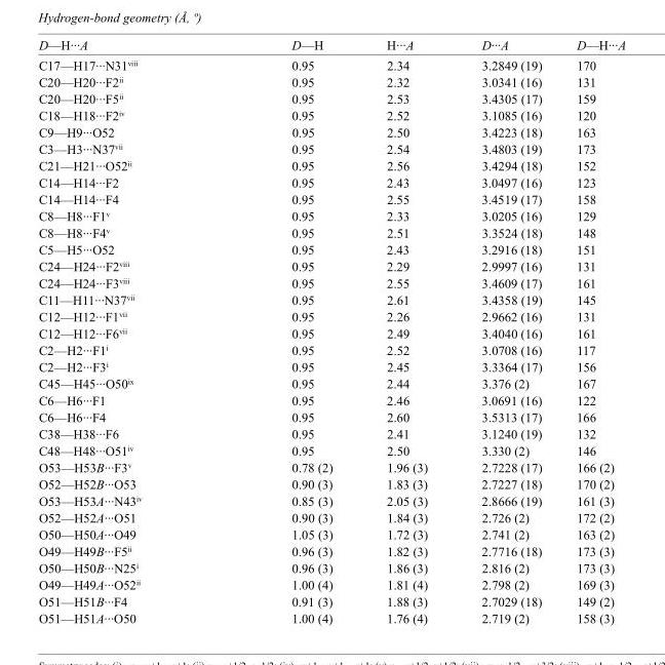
<table><tbody><tr><td>D—H···A</td><td>D—H</td><td>H···A</td><td>D···A</td><td>D—H···A</td></tr><tr><td>C17—H17···N31<sup>viii</sup></td><td>0.95</td><td>2.34</td><td>3.2849 (19)</td><td>170</td></tr><tr><td>C20—H20···F2<sup>ii</sup></td><td>0.95</td><td>2.32</td><td>3.0341 (16)</td><td>131</td></tr><tr><td>C20—H20···F5<sup>ii</sup></td><td>0.95</td><td>2.53</td><td>3.4305 (17)</td><td>159</td></tr><tr><td>C18—H18···F2<sup>iv</sup></td><td>0.95</td><td>2.52</td><td>3.1085 (16)</td><td>120</td></tr><tr><td>C9—H9···O52</td><td>0.95</td><td>2.50</td><td>3.4223 (18)</td><td>163</td></tr><tr><td>C3—H3···N37<sup>vii</sup></td><td>0.95</td><td>2.54</td><td>3.4803 (19)</td><td>173</td></tr><tr><td>C21—H21···O52<sup>ii</sup></td><td>0.95</td><td>2.56</td><td>3.4294 (18)</td><td>152</td></tr><tr><td>C14—H14···F2</td><td>0.95</td><td>2.43</td><td>3.0497 (16)</td><td>123</td></tr><tr><td>C14—H14···F4</td><td>0.95</td><td>2.55</td><td>3.4519 (17)</td><td>158</td></tr><tr><td>C8—H8···F1<sup>v</sup></td><td>0.95</td><td>2.33</td><td>3.0205 (16)</td><td>129</td></tr><tr><td>C8—H8···F4<sup>v</sup></td><td>0.95</td><td>2.51</td><td>3.3524 (18)</td><td>148</td></tr><tr><td>C5—H5···O52</td><td>0.95</td><td>2.43</td><td>3.2916 (18)</td><td>151</td></tr><tr><td>C24—H24···F2<sup>viii</sup></td><td>0.95</td><td>2.29</td><td>2.9997 (16)</td><td>131</td></tr><tr><td>C24—H24···F3<sup>viii</sup></td><td>0.95</td><td>2.55</td><td>3.4609 (17)</td><td>161</td></tr><tr><td>C11—H11···N37<sup>vii</sup></td><td>0.95</td><td>2.61</td><td>3.4358 (19)</td><td>145</td></tr><tr><td>C12—H12···F1<sup>vii</sup></td><td>0.95</td><td>2.26</td><td>2.9662 (16)</td><td>131</td></tr><tr><td>C12—H12···F6<sup>vii</sup></td><td>0.95</td><td>2.49</td><td>3.4040 (16)</td><td>161</td></tr><tr><td>C2—H2···F1<sup>i</sup></td><td>0.95</td><td>2.52</td><td>3.0708 (16)</td><td>117</td></tr><tr><td>C2—H2···F3<sup>i</sup></td><td>0.95</td><td>2.45</td><td>3.3364 (17)</td><td>156</td></tr><tr><td>C45—H45···O50<sup>ix</sup></td><td>0.95</td><td>2.44</td><td>3.376 (2)</td><td>167</td></tr><tr><td>C6—H6···F1</td><td>0.95</td><td>2.46</td><td>3.0691 (16)</td><td>122</td></tr><tr><td>C6—H6···F4</td><td>0.95</td><td>2.60</td><td>3.5313 (17)</td><td>166</td></tr><tr><td>C38—H38···F6</td><td>0.95</td><td>2.41</td><td>3.1240 (19)</td><td>132</td></tr><tr><td>C48—H48···O51<sup>iv</sup></td><td>0.95</td><td>2.50</td><td>3.330 (2)</td><td>146</td></tr><tr><td>O53—H53B···F3<sup>v</sup></td><td>0.78 (2)</td><td>1.96 (3)</td><td>2.7228 (17)</td><td>166 (2)</td></tr><tr><td>O52—H52B···O53</td><td>0.90 (3)</td><td>1.83 (3)</td><td>2.7227 (18)</td><td>170 (2)</td></tr><tr><td>O53—H53A···N43<sup>iv</sup></td><td>0.85 (3)</td><td>2.05 (3)</td><td>2.8666 (19)</td><td>161 (3)</td></tr><tr><td>O52—H52A···O51</td><td>0.90 (3)</td><td>1.84 (3)</td><td>2.726 (2)</td><td>172 (2)</td></tr><tr><td>O50—H50A···O49</td><td>1.05 (3)</td><td>1.72 (3)</td><td>2.741 (2)</td><td>163 (2)</td></tr><tr><td>O49—H49B···F5<sup>ii</sup></td><td>0.96 (3)</td><td>1.82 (3)</td><td>2.7716 (18)</td><td>173 (3)</td></tr><tr><td>O50—H50B···N25<sup>i</sup></td><td>0.96 (3)</td><td>1.86 (3)</td><td>2.816 (2)</td><td>173 (3)</td></tr><tr><td>O49—H49A···O52<sup>ii</sup></td><td>1.00 (4)</td><td>1.81 (4)</td><td>2.798 (2)</td><td>169 (3)</td></tr><tr><td>O51—H51B···F4</td><td>0.91 (3)</td><td>1.88 (3)</td><td>2.7029 (18)</td><td>149 (2)</td></tr><tr><td>O51—H51A···O50</td><td>1.00 (4)</td><td>1.76 (4)</td><td>2.719 (2)</td><td>158 (3)</td></tr></tbody></table>